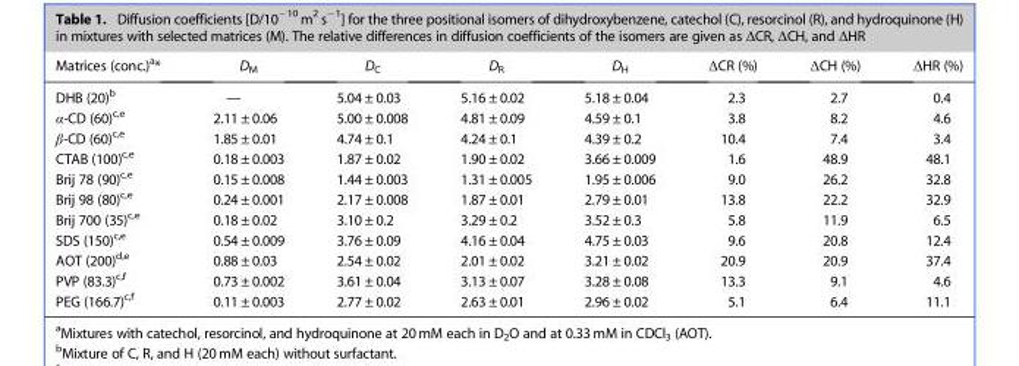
<table><thead><tr><td>Matrices (conc.)a*</td><td>D<sub>M</sub></td><td>D<sub>C</sub></td><td>D<sub>R</sub></td><td>D<sub>H</sub></td><td>ΔCR (%)</td><td>ΔCH (%)</td><td>ΔHR (%)</td></tr></thead><tbody><tr><td>DHB (20)<sup>b</sup></td><td>—</td><td>5.04 ± 0.03</td><td>5.16 ± 0.02</td><td>5.18 ± 0.04</td><td>2.3</td><td>2.7</td><td>0.4</td></tr><tr><td>α-CD (60)<sup>c</sup>,<sup>e</sup></td><td>2.11 ± 0.06</td><td>5.00 ± 0.008</td><td>4.81 ± 0.09</td><td>4.59 ± 0.1</td><td>3.8</td><td>8.2</td><td>4.6</td></tr><tr><td>β-CD (60)<sup>c</sup>,<sup>e</sup></td><td>1.85 ± 0.01</td><td>4.74 ± 0.1</td><td>4.24 ± 0.1</td><td>4.39 ± 0.2</td><td>10.4</td><td>7.4</td><td>3.4</td></tr><tr><td>CTAB (100)<sup>c</sup>,<sup>e</sup></td><td>0.18 ± 0.003</td><td>1.87 ± 0.02</td><td>1.90 ± 0.02</td><td>3.66 ± 0.009</td><td>1.6</td><td>48.9</td><td>48.1</td></tr><tr><td>Brij 78 (90)<sup>c</sup>,<sup>e</sup></td><td>0.15 ± 0.008</td><td>1.44 ± 0.003</td><td>1.31 ± 0.005</td><td>1.95 ± 0.006</td><td>9.0</td><td>26.2</td><td>32.8</td></tr><tr><td>Brij 98 (80)<sup>c</sup>,<sup>e</sup></td><td>0.24 ± 0.001</td><td>2.17 ± 0.008</td><td>1.87 ± 0.01</td><td>2.79 ± 0.01</td><td>13.8</td><td>22.2</td><td>32.9</td></tr><tr><td>Brij 700 (35)<sup>c</sup>,<sup>e</sup></td><td>0.18 ± 0.02</td><td>3.10 ± 0.2</td><td>3.29 ± 0.2</td><td>3.52 ± 0.3</td><td>5.8</td><td>11.9</td><td>6.5</td></tr><tr><td>SDS (150)<sup>c</sup>,<sup>e</sup></td><td>0.54 ± 0.009</td><td>3.76 ± 0.09</td><td>4.16 ± 0.04</td><td>4.75 ± 0.03</td><td>9.6</td><td>20.8</td><td>12.4</td></tr><tr><td>AOT (200)<sup>d</sup>,<sup>e</sup></td><td>0.88 ± 0.03</td><td>2.54 ± 0.02</td><td>2.01 ± 0.02</td><td>3.21 ± 0.02</td><td>20.9</td><td>20.9</td><td>37.4</td></tr><tr><td>PVP (83.3)<sup>c</sup>,<sup>f</sup></td><td>0.73 ± 0.002</td><td>3.61 ± 0.04</td><td>3.13 ± 0.07</td><td>3.28 ± 0.08</td><td>13.3</td><td>9.1</td><td>4.6</td></tr><tr><td>PEG (166.7)<sup>c</sup>,<sup>f</sup></td><td>0.11 ± 0.003</td><td>2.77 ± 0.02</td><td>2.63 ± 0.01</td><td>2.96 ± 0.02</td><td>5.1</td><td>6.4</td><td>11.1</td></tr></tbody></table>